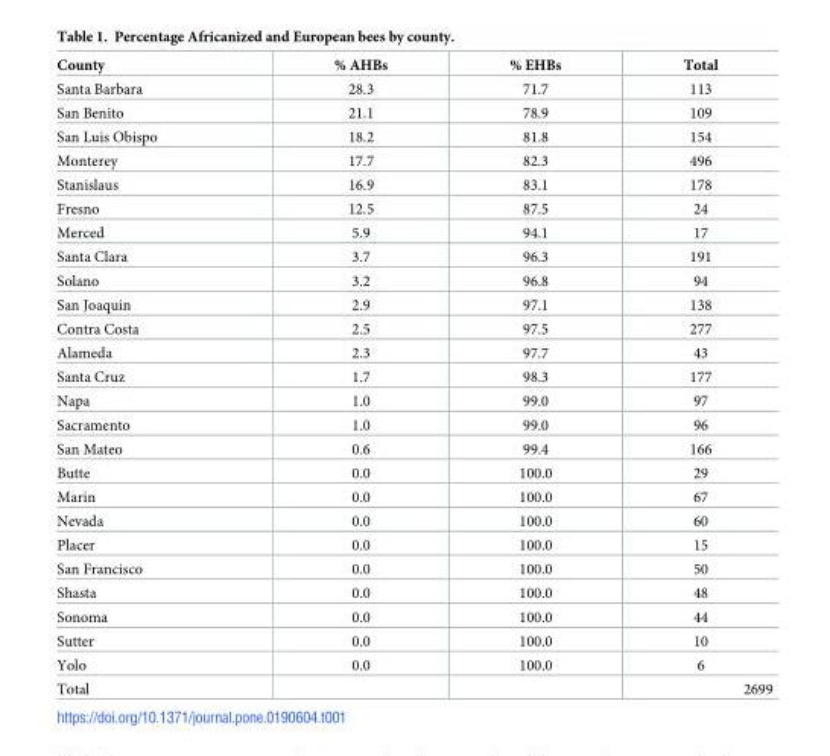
<table><thead><tr><td>County</td><td>% AHBs</td><td>% EHBs</td><td>Total</td></tr></thead><tbody><tr><td>Santa Barbara</td><td>28.3</td><td>71.7</td><td>113</td></tr><tr><td>San Benito</td><td>21.1</td><td>78.9</td><td>109</td></tr><tr><td>San Luis Obispo</td><td>18.2</td><td>81.8</td><td>154</td></tr><tr><td>Monterey</td><td>17.7</td><td>82.3</td><td>496</td></tr><tr><td>Stanislaus</td><td>16.9</td><td>83.1</td><td>178</td></tr><tr><td>Fresno</td><td>12.5</td><td>87.5</td><td>24</td></tr><tr><td>Merced</td><td>5.9</td><td>94.1</td><td>17</td></tr><tr><td>Santa Clara</td><td>3.7</td><td>96.3</td><td>191</td></tr><tr><td>Solano</td><td>3.2</td><td>96.8</td><td>94</td></tr><tr><td>San Joaquin</td><td>2.9</td><td>97.1</td><td>138</td></tr><tr><td>Contra Costa</td><td>2.5</td><td>97.5</td><td>277</td></tr><tr><td>Alameda</td><td>2.3</td><td>97.7</td><td>43</td></tr><tr><td>Santa Cruz</td><td>1.7</td><td>98.3</td><td>177</td></tr><tr><td>Napa</td><td>1.0</td><td>99.0</td><td>97</td></tr><tr><td>Sacramento</td><td>1.0</td><td>99.0</td><td>96</td></tr><tr><td>San Mateo</td><td>0.6</td><td>99.4</td><td>166</td></tr><tr><td>Butte</td><td>0.0</td><td>100.0</td><td>29</td></tr><tr><td>Marin</td><td>0.0</td><td>100.0</td><td>67</td></tr><tr><td>Nevada</td><td>0.0</td><td>100.0</td><td>60</td></tr><tr><td>Placer</td><td>0.0</td><td>100.0</td><td>15</td></tr><tr><td>San Francisco</td><td>0.0</td><td>100.0</td><td>50</td></tr><tr><td>Shasta</td><td>0.0</td><td>100.0</td><td>48</td></tr><tr><td>Sonoma</td><td>0.0</td><td>100.0</td><td>44</td></tr><tr><td>Sutter</td><td>0.0</td><td>100.0</td><td>10</td></tr><tr><td>Yolo</td><td>0.0</td><td>100.0</td><td>6</td></tr><tr><td>Total</td><td></td><td></td><td>2699</td></tr></tbody></table>